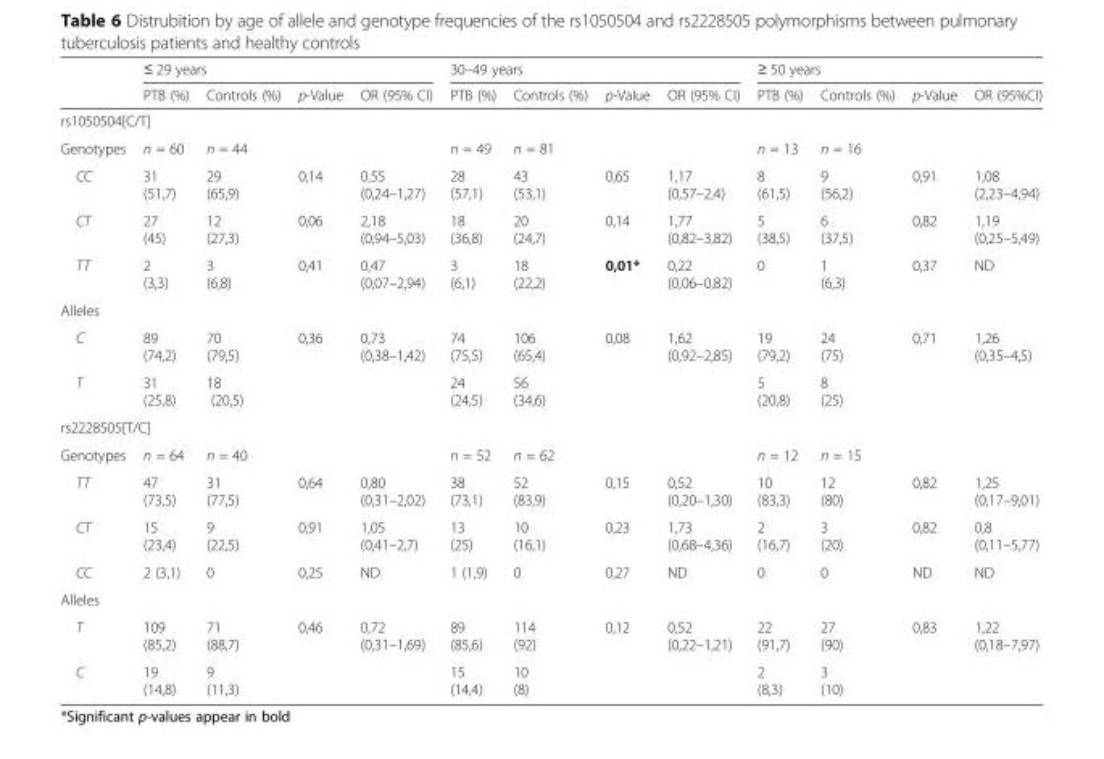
<table><thead><tr><td rowspan="2"></td><td colspan="4">≤ 29 years</td><td colspan="4">30–49 years</td><td colspan="4">≥ 50 years</td></tr><tr><td>PTB (%)</td><td>Controls (%)</td><td>p-Value</td><td>OR (95% CI)</td><td>PTB (%)</td><td>Controls (%)</td><td>p-Value</td><td>OR (95% CI)</td><td>PTB (%)</td><td>Controls (%)</td><td>p-Value</td><td>OR (95%CI)</td></tr></thead><tbody><tr><td colspan="13">rs1050504[C/T]</td></tr><tr><td>Genotypes</td><td>n = 60</td><td>n = 44</td><td></td><td></td><td>n = 49</td><td>n = 81</td><td></td><td></td><td>n = 13</td><td>n = 16</td><td></td><td></td></tr><tr><td>CC</td><td>31 (51,7)</td><td>29 (65,9)</td><td>0,14</td><td>0,55 (0,24–1,27)</td><td>28 (57,1)</td><td>43 (53,1)</td><td>0,65</td><td>1,17 (0,57–2,4)</td><td>8 (61,5)</td><td>9 (56,2)</td><td>0,91</td><td>1,08 (2,23–4,94)</td></tr><tr><td>CT</td><td>27 (45)</td><td>12 (27,3)</td><td>0,06</td><td>2,18 (0,94–5,03)</td><td>18 (36,8)</td><td>20 (24,7)</td><td>0,14</td><td>1,77 (0,82–3,82)</td><td>5 (38,5)</td><td>6 (37,5)</td><td>0,82</td><td>1,19 (0,25–5,49)</td></tr><tr><td>TT</td><td>2 (3,3)</td><td>3 (6,8)</td><td>0,41</td><td>0,47 (0,07–2,94)</td><td>3 (6,1)</td><td>18 (22,2)</td><td>0,01*</td><td>0,22 (0,06–0,82)</td><td>0</td><td>1 (6,3)</td><td>0,37</td><td>ND</td></tr><tr><td colspan="13">Alleles</td></tr><tr><td>C</td><td>89 (74,2)</td><td>70 (79,5)</td><td>0,36</td><td>0,73 (0,38–1,42)</td><td>74 (75,5)</td><td>106 (65,4)</td><td>0,08</td><td>1,62 (0,92–2,85)</td><td>19 (79,2)</td><td>24 (75)</td><td>0,71</td><td>1,26 (0,35–4,5)</td></tr><tr><td>T</td><td>31 (25,8)</td><td>18 (20,5)</td><td></td><td></td><td>24 (24,5)</td><td>56 (34,6)</td><td></td><td></td><td>5 (20,8)</td><td>8 (25)</td><td></td><td></td></tr><tr><td colspan="13">rs2228505[T/C]</td></tr><tr><td>Genotypes</td><td>n = 64</td><td>n = 40</td><td></td><td></td><td>n = 52</td><td>n = 62</td><td></td><td></td><td>n = 12</td><td>n = 15</td><td></td><td></td></tr><tr><td>TT</td><td>47 (73,5)</td><td>31 (77,5)</td><td>0,64</td><td>0,80 (0,31–2,02)</td><td>38 (73,1)</td><td>52 (83,9)</td><td>0,15</td><td>0,52 (0,20–1,30)</td><td>10 (83,3)</td><td>12 (80)</td><td>0,82</td><td>1,25 (0,17–9,01)</td></tr><tr><td>CT</td><td>15 (23,4)</td><td>9 (22,5)</td><td>0,91</td><td>1,05 (0,41–2,7)</td><td>13 (25)</td><td>10 (16,1)</td><td>0,23</td><td>1,73 (0,68–4,36)</td><td>2 (16,7)</td><td>3 (20)</td><td>0,82</td><td>0,8 (0,11–5,77)</td></tr><tr><td>CC</td><td>2 (3,1)</td><td>0</td><td>0,25</td><td>ND</td><td>1 (1,9)</td><td>0</td><td>0,27</td><td>ND</td><td>0</td><td>0</td><td>ND</td><td>ND</td></tr><tr><td colspan="13">Alleles</td></tr><tr><td>T</td><td>109 (85,2)</td><td>71 (88,7)</td><td>0,46</td><td>0,72 (0,31–1,69)</td><td>89 (85,6)</td><td>114 (92)</td><td>0,12</td><td>0,52 (0,22–1,21)</td><td>22 (91,7)</td><td>27 (90)</td><td>0,83</td><td>1,22 (0,18–7,97)</td></tr><tr><td>C</td><td>19 (14,8)</td><td>9 (11,3)</td><td></td><td></td><td>15 (14,4)</td><td>10 (8)</td><td></td><td></td><td>2 (8,3)</td><td>3 (10)</td><td></td><td></td></tr></tbody></table>